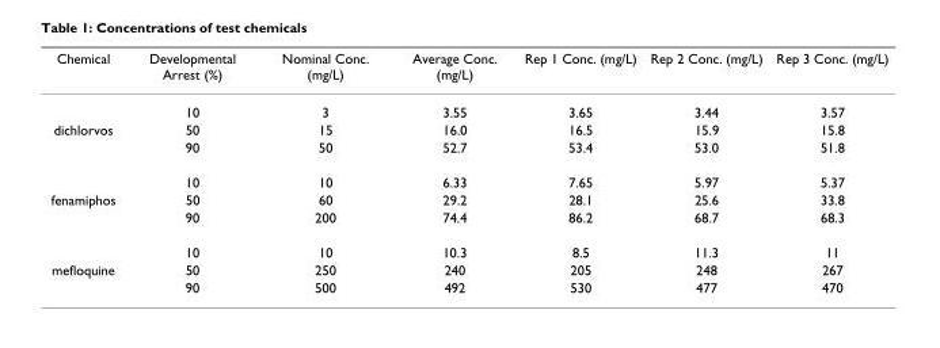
<table><thead><tr><td>Chemical</td><td>Developmental Arrest (%)</td><td>Nominal Conc. (mg/L)</td><td>Average Conc. (mg/L)</td><td>Rep 1 Conc. (mg/L)</td><td>Rep 2 Conc. (mg/L)</td><td>Rep 3 Conc. (mg/L)</td></tr></thead><tbody><tr><td></td><td>10</td><td>3</td><td>3.55</td><td>3.65</td><td>3.44</td><td>3.57</td></tr><tr><td rowspan="3">dichlorvos</td><td>50</td><td>15</td><td>16.0</td><td>16.5</td><td>15.9</td><td>15.8</td></tr><tr><td>90</td><td>50</td><td>52.7</td><td>53.4</td><td>53.0</td><td>51.8</td></tr><tr><td>10</td><td>10</td><td>6.33</td><td>7.65</td><td>5.97</td><td>5.37</td></tr><tr><td rowspan="3">fenamiphos</td><td>50</td><td>60</td><td>29.2</td><td>28.1</td><td>25.6</td><td>33.8</td></tr><tr><td>90</td><td>200</td><td>74.4</td><td>86.2</td><td>68.7</td><td>68.3</td></tr><tr><td>10</td><td>10</td><td>10.3</td><td>8.5</td><td>11.3</td><td>11</td></tr><tr><td rowspan="2">mefloquine</td><td>50</td><td>250</td><td>240</td><td>205</td><td>248</td><td>267</td></tr><tr><td>90</td><td>500</td><td>492</td><td>530</td><td>477</td><td>470</td></tr></tbody></table>